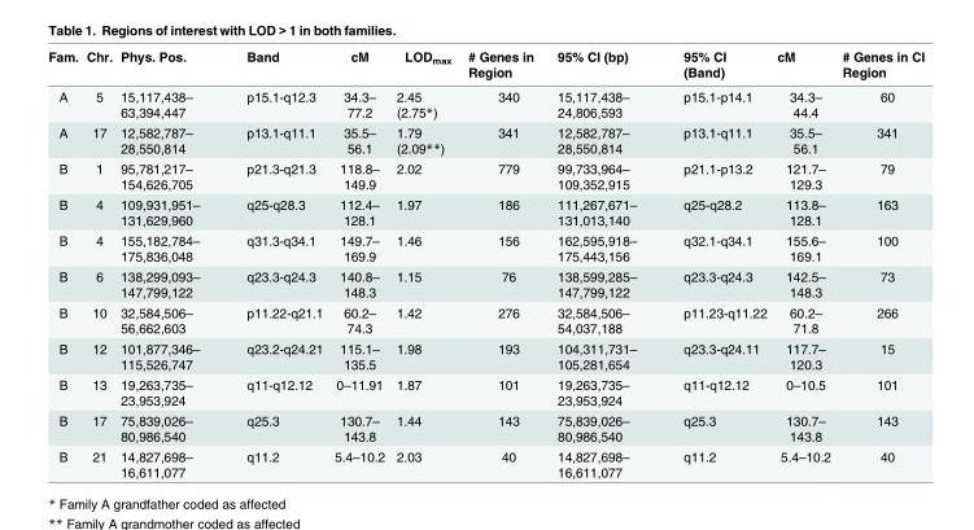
<table><thead><tr><td>Fam.</td><td>Chr.</td><td>Phys. Pos.</td><td>Band</td><td>cM</td><td>LOD<sub>max</sub></td><td># Genes in Region</td><td>95% CI (bp)</td><td>95% CI (Band)</td><td>cM</td><td># Genes in CI Region</td></tr></thead><tbody><tr><td>A</td><td>5</td><td>15,117,438– 63,394,447</td><td>p15.1-q12.3</td><td>34.3– 77.2</td><td>2.45 (2.75*)</td><td>340</td><td>15,117,438– 24,806,593</td><td>p15.1-p14.1</td><td>34.3– 44.4</td><td>60</td></tr><tr><td>A</td><td>17</td><td>12,582,787– 28,550,814</td><td>p13.1-q11.1</td><td>35.5– 56.1</td><td>1.79 (2.09**)</td><td>341</td><td>12,582,787– 28,550,814</td><td>p13.1-q11.1</td><td>35.5– 56.1</td><td>341</td></tr><tr><td>B</td><td>1</td><td>95,781,217– 154,626,705</td><td>p21.3-q21.3</td><td>118.8– 149.9</td><td>2.02</td><td>779</td><td>99,733,964– 109,352,915</td><td>p21.1-p13.2</td><td>121.7– 129.3</td><td>79</td></tr><tr><td>B</td><td>4</td><td>109,931,951– 131,629,960</td><td>q25-q28.3</td><td>112.4– 128.1</td><td>1.97</td><td>186</td><td>111,267,671– 131,013,140</td><td>q25-q28.2</td><td>113.8– 128.1</td><td>163</td></tr><tr><td>B</td><td>4</td><td>155,182,784– 175,836,048</td><td>q31.3-q34.1</td><td>149.7– 169.9</td><td>1.46</td><td>156</td><td>162,595,918– 175,443,156</td><td>q32.1-q34.1</td><td>155.6– 169.1</td><td>100</td></tr><tr><td>B</td><td>6</td><td>138,299,093– 147,799,122</td><td>q23.3-q24.3</td><td>140.8– 148.3</td><td>1.15</td><td>76</td><td>138,599,285– 147,799,122</td><td>q23.3-q24.3</td><td>142.5– 148.3</td><td>73</td></tr><tr><td>B</td><td>10</td><td>32,584,506– 56,662,603</td><td>p11.22-q21.1</td><td>60.2– 74.3</td><td>1.42</td><td>276</td><td>32,584,506– 54,037,188</td><td>p11.23-q11.22</td><td>60.2– 71.8</td><td>266</td></tr><tr><td>B</td><td>12</td><td>101,877,346– 115,526,747</td><td>q23.2-q24.21</td><td>115.1– 135.5</td><td>1.98</td><td>193</td><td>104,311,731– 105,281,654</td><td>q23.3-q24.11</td><td>117.7– 120.3</td><td>15</td></tr><tr><td>B</td><td>13</td><td>19,263,735– 23,953,924</td><td>q11-q12.12</td><td>0–11.91</td><td>1.87</td><td>101</td><td>19,263,735– 23,953,924</td><td>q11-q12.12</td><td>0–10.5</td><td>101</td></tr><tr><td>B</td><td>17</td><td>75,839,026– 80,986,540</td><td>q25.3</td><td>130.7– 143.8</td><td>1.44</td><td>143</td><td>75,839,026– 80,986,540</td><td>q25.3</td><td>130.7– 143.8</td><td>143</td></tr><tr><td>B</td><td>21</td><td>14,827,698– 16,611,077</td><td>q11.2</td><td>5.4–10.2</td><td>2.03</td><td>40</td><td>14,827,698– 16,611,077</td><td>q11.2</td><td>5.4–10.2</td><td>40</td></tr></tbody></table>